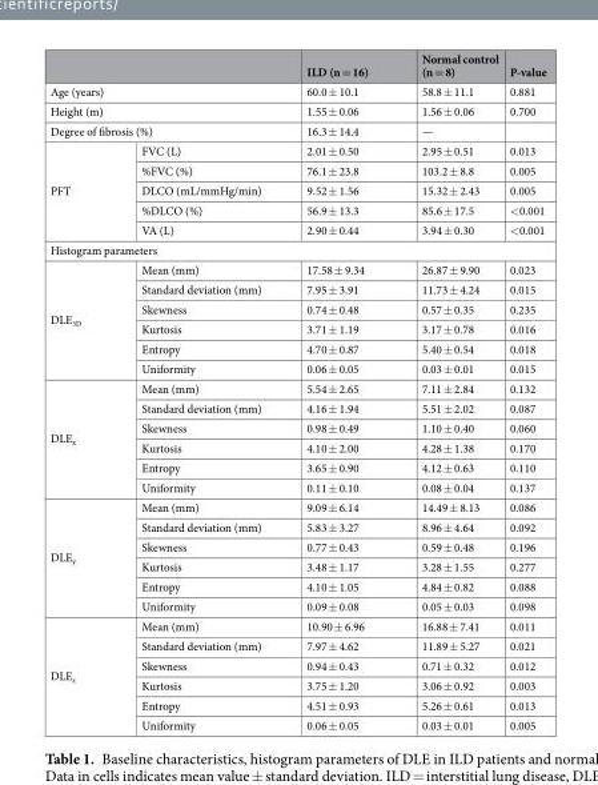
<table><thead><tr><td></td><td></td><td>ILD (n = 16)</td><td>Normal control (n = 8)</td><td>P-value</td></tr></thead><tbody><tr><td colspan="2">Age (years)</td><td>60.0 ± 10.1</td><td>58.8 ± 11.1</td><td>0.881</td></tr><tr><td colspan="2">Height (m)</td><td>1.55 ± 0.06</td><td>1.56 ± 0.06</td><td>0.700</td></tr><tr><td colspan="2">Degree of fibrosis (%)</td><td>16.3 ± 14.4</td><td>—</td><td></td></tr><tr><td rowspan="5">PFT</td><td>FVC (L)</td><td>2.01 ± 0.50</td><td>2.95 ± 0.51</td><td>0.013</td></tr><tr><td>%FVC (%)</td><td>76.1 ± 23.8</td><td>103.2 ± 8.8</td><td>0.005</td></tr><tr><td>DLCO (mL/mmHg/min)</td><td>9.52 ± 1.56</td><td>15.32 ± 2.43</td><td>0.005</td></tr><tr><td>%DLCO (%)</td><td>56.9 ± 13.3</td><td>85.6 ± 17.5</td><td>&lt;0.001</td></tr><tr><td>VA (L)</td><td>2.90 ± 0.44</td><td>3.94 ± 0.30</td><td>&lt;0.001</td></tr><tr><td colspan="5">Histogram parameters</td></tr><tr><td rowspan="6">DLE<sub>3D</sub></td><td>Mean (mm)</td><td>17.58 ± 9.34</td><td>26.87 ± 9.90</td><td>0.023</td></tr><tr><td>Standard deviation (mm)</td><td>7.95 ± 3.91</td><td>11.73 ± 4.24</td><td>0.015</td></tr><tr><td>Skewness</td><td>0.74 ± 0.48</td><td>0.57 ± 0.35</td><td>0.235</td></tr><tr><td>Kurtosis</td><td>3.71 ± 1.19</td><td>3.17 ± 0.78</td><td>0.016</td></tr><tr><td>Entropy</td><td>4.70 ± 0.87</td><td>5.40 ± 0.54</td><td>0.018</td></tr><tr><td>Uniformity</td><td>0.06 ± 0.05</td><td>0.03 ± 0.01</td><td>0.015</td></tr><tr><td rowspan="6">DLE<sub>x</sub></td><td>Mean (mm)</td><td>5.54 ± 2.65</td><td>7.11 ± 2.84</td><td>0.132</td></tr><tr><td>Standard deviation (mm)</td><td>4.16 ± 1.94</td><td>5.51 ± 2.02</td><td>0.087</td></tr><tr><td>Skewness</td><td>0.98 ± 0.49</td><td>1.10 ± 0.40</td><td>0.060</td></tr><tr><td>Kurtosis</td><td>4.10 ± 2.00</td><td>4.28 ± 1.38</td><td>0.170</td></tr><tr><td>Entropy</td><td>3.65 ± 0.90</td><td>4.12 ± 0.63</td><td>0.110</td></tr><tr><td>Uniformity</td><td>0.11 ± 0.10</td><td>0.08 ± 0.04</td><td>0.137</td></tr><tr><td rowspan="6">DLE<sub>y</sub></td><td>Mean (mm)</td><td>9.09 ± 6.14</td><td>14.49 ± 8.13</td><td>0.086</td></tr><tr><td>Standard deviation (mm)</td><td>5.83 ± 3.27</td><td>8.96 ± 4.64</td><td>0.092</td></tr><tr><td>Skewness</td><td>0.77 ± 0.43</td><td>0.59 ± 0.48</td><td>0.196</td></tr><tr><td>Kurtosis</td><td>3.48 ± 1.17</td><td>3.28 ± 1.55</td><td>0.277</td></tr><tr><td>Entropy</td><td>4.10 ± 1.05</td><td>4.84 ± 0.82</td><td>0.088</td></tr><tr><td>Uniformity</td><td>0.09 ± 0.08</td><td>0.05 ± 0.03</td><td>0.098</td></tr><tr><td rowspan="6">DLE<sub>z</sub></td><td>Mean (mm)</td><td>10.90 ± 6.96</td><td>16.88 ± 7.41</td><td>0.011</td></tr><tr><td>Standard deviation (mm)</td><td>7.97 ± 4.62</td><td>11.89 ± 5.27</td><td>0.021</td></tr><tr><td>Skewness</td><td>0.94 ± 0.43</td><td>0.71 ± 0.32</td><td>0.012</td></tr><tr><td>Kurtosis</td><td>3.75 ± 1.20</td><td>3.06 ± 0.92</td><td>0.003</td></tr><tr><td>Entropy</td><td>4.51 ± 0.93</td><td>5.26 ± 0.61</td><td>0.013</td></tr><tr><td>Uniformity</td><td>0.06 ± 0.05</td><td>0.03 ± 0.01</td><td>0.005</td></tr></tbody></table>